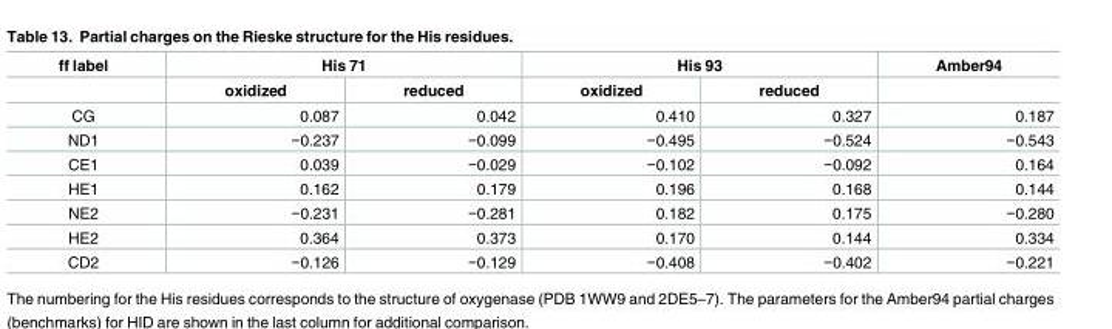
<table><thead><tr><td rowspan="2">ff label</td><td colspan="2">His 71</td><td colspan="2">His 93</td><td rowspan="2">Amber94</td></tr><tr><td>oxidized</td><td>reduced</td><td>oxidized</td><td>reduced</td></tr></thead><tbody><tr><td>CG</td><td>0.087</td><td>0.042</td><td>0.410</td><td>0.327</td><td>0.187</td></tr><tr><td>ND1</td><td>−0.237</td><td>−0.099</td><td>−0.495</td><td>−0.524</td><td>−0.543</td></tr><tr><td>CE1</td><td>0.039</td><td>−0.029</td><td>−0.102</td><td>−0.092</td><td>0.164</td></tr><tr><td>HE1</td><td>0.162</td><td>0.179</td><td>0.196</td><td>0.168</td><td>0.144</td></tr><tr><td>NE2</td><td>−0.231</td><td>−0.281</td><td>0.182</td><td>0.175</td><td>−0.280</td></tr><tr><td>HE2</td><td>0.364</td><td>0.373</td><td>0.170</td><td>0.144</td><td>0.334</td></tr><tr><td>CD2</td><td>−0.126</td><td>−0.129</td><td>−0.408</td><td>−0.402</td><td>−0.221</td></tr></tbody></table>